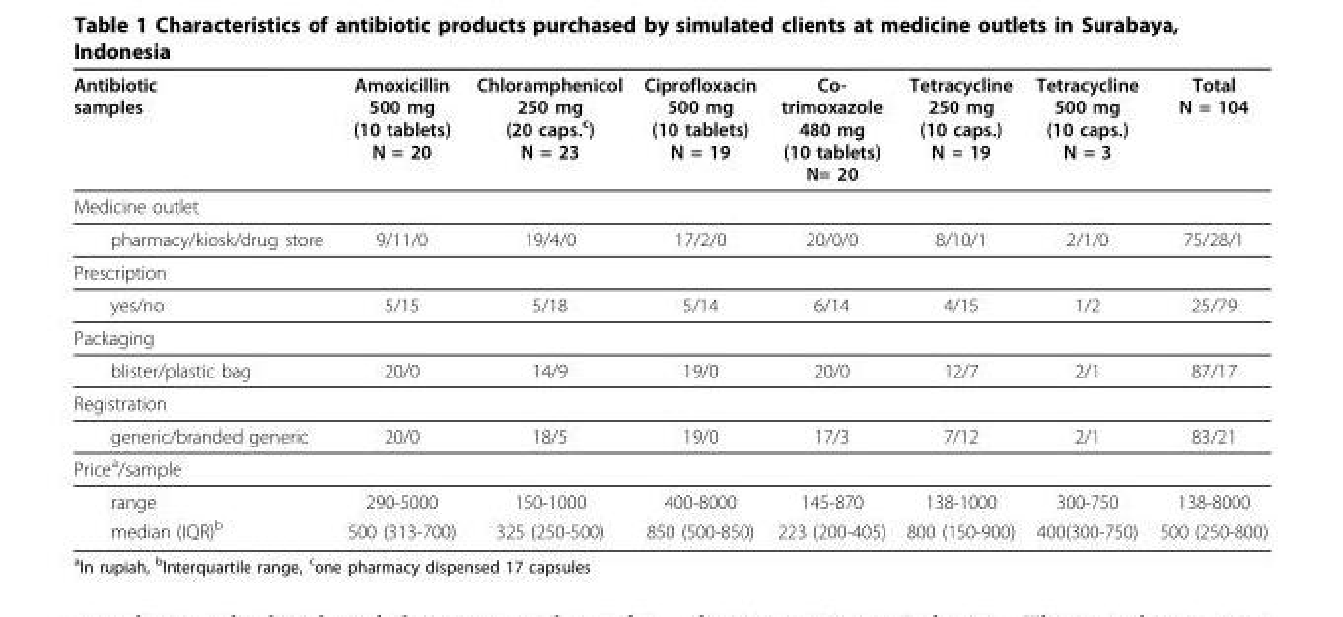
<table><thead><tr><td>Antibiotic samples</td><td>Amoxicillin 500 mg (10 tablets) N = 20</td><td>Chloramphenicol 250 mg (20 caps.<sup>c</sup>) N = 23</td><td>Ciprofloxacin 500 mg (10 tablets) N = 19</td><td>Co- trimoxazole 480 mg (10 tablets) N= 20</td><td>Tetracycline 250 mg (10 caps.) N = 19</td><td>Tetracycline 500 mg (10 caps.) N = 3</td><td>Total N = 104</td></tr></thead><tbody><tr><td colspan="8">Medicine outlet</td></tr><tr><td>pharmacy/kiosk/drug store</td><td>9/11/0</td><td>19/4/0</td><td>17/2/0</td><td>20/0/0</td><td>8/10/1</td><td>2/1/0</td><td>75/28/1</td></tr><tr><td colspan="8">Prescription</td></tr><tr><td>yes/no</td><td>5/15</td><td>5/18</td><td>5/14</td><td>6/14</td><td>4/15</td><td>1/2</td><td>25/79</td></tr><tr><td colspan="8">Packaging</td></tr><tr><td>blister/plastic bag</td><td>20/0</td><td>14/9</td><td>19/0</td><td>20/0</td><td>12/7</td><td>2/1</td><td>87/17</td></tr><tr><td colspan="8">Registration</td></tr><tr><td>generic/branded generic</td><td>20/0</td><td>18/5</td><td>19/0</td><td>17/3</td><td>7/12</td><td>2/1</td><td>83/21</td></tr><tr><td colspan="8">Price<sup>a</sup>/sample</td></tr><tr><td>range</td><td>290-5000</td><td>150-1000</td><td>400-8000</td><td>145-870</td><td>138-1000</td><td>300-750</td><td>138-8000</td></tr><tr><td>median (IQR)<sup>b</sup></td><td>500 (313-700)</td><td>325 (250-500)</td><td>850 (500-850)</td><td>223 (200-405)</td><td>800 (150-900)</td><td>400(300-750)</td><td>500 (250-800)</td></tr></tbody></table>